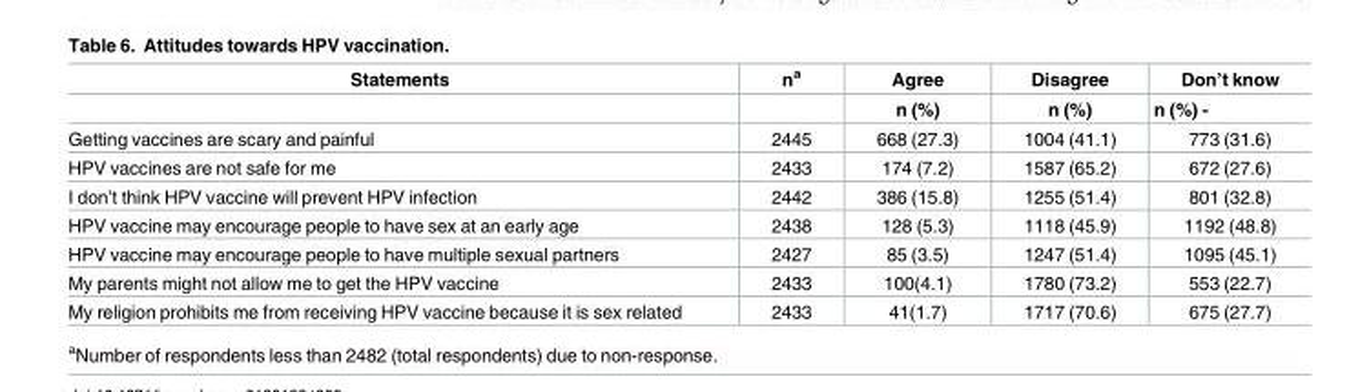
<table><thead><tr><td rowspan="2">Statements</td><td rowspan="2">n<sup>a</sup></td><td rowspan="2">Agree n (%)</td><td rowspan="2">Disagree n (%)</td><td rowspan="2">Don’t know n (%) -</td></tr><tr></tr></thead><tbody><tr><td>Getting vaccines are scary and painful</td><td>2445</td><td>668 (27.3)</td><td>1004 (41.1)</td><td>773 (31.6)</td></tr><tr><td>HPV vaccines are not safe for me</td><td>2433</td><td>174 (7.2)</td><td>1587 (65.2)</td><td>672 (27.6)</td></tr><tr><td>I don’t think HPV vaccine will prevent HPV infection</td><td>2442</td><td>386 (15.8)</td><td>1255 (51.4)</td><td>801 (32.8)</td></tr><tr><td>HPV vaccine may encourage people to have sex at an early age</td><td>2438</td><td>128 (5.3)</td><td>1118 (45.9)</td><td>1192 (48.8)</td></tr><tr><td>HPV vaccine may encourage people to have multiple sexual partners</td><td>2427</td><td>85 (3.5)</td><td>1247 (51.4)</td><td>1095 (45.1)</td></tr><tr><td>My parents might not allow me to get the HPV vaccine</td><td>2433</td><td>100(4.1)</td><td>1780 (73.2)</td><td>553 (22.7)</td></tr><tr><td>My religion prohibits me from receiving HPV vaccine because it is sex related</td><td>2433</td><td>41(1.7)</td><td>1717 (70.6)</td><td>675 (27.7)</td></tr></tbody></table>